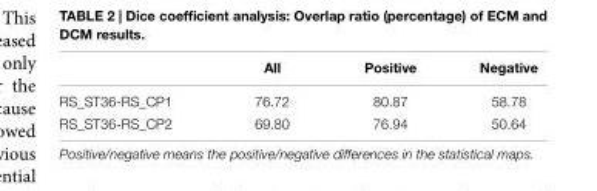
<table><thead><tr><td></td><td>All</td><td>Positive</td><td>Negative</td></tr></thead><tbody><tr><td>RS_ST36-RS_CP1</td><td>76.72</td><td>80.87</td><td>58.78</td></tr><tr><td>RS_ST36-RS_CP2</td><td>69.80</td><td>76.94</td><td>50.64</td></tr></tbody></table>